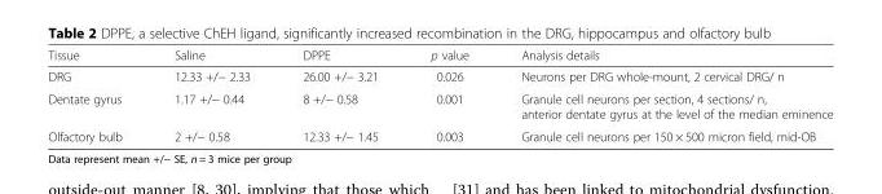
<table><thead><tr><td>Tissue</td><td>Saline</td><td>DPPE</td><td>p value</td><td>Analysis details</td></tr></thead><tbody><tr><td>DRG</td><td>12.33 +/− 2.33</td><td>26.00 +/− 3.21</td><td>0.026</td><td>Neurons per DRG whole-mount, 2 cervical DRG/ n</td></tr><tr><td>Dentate gyrus</td><td>1.17 +/− 0.44</td><td>8 +/− 0.58</td><td>0.001</td><td>Granule cell neurons per section, 4 sections/ n, anterior dentate gyrus at the level of the median eminence</td></tr><tr><td>Olfactory bulb</td><td>2 +/− 0.58</td><td>12.33 +/− 1.45</td><td>0.003</td><td>Granule cell neurons per 150 × 500 micron field, mid-OB</td></tr></tbody></table>